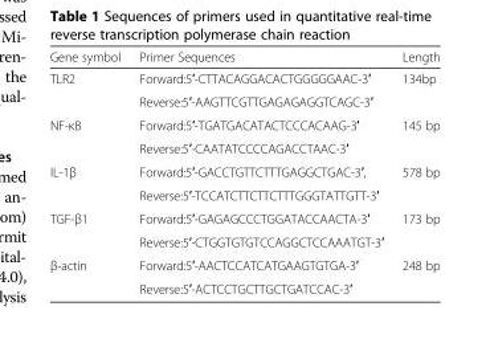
<table><thead><tr><td>Gene symbol</td><td>Primer Sequences</td><td>Length</td></tr></thead><tbody><tr><td rowspan="2">TLR2</td><td>Forward:5′-CTTACAGGACACTGGGGGAAC-3′</td><td>134bp</td></tr><tr><td>Reverse:5′-AAGTTCGTTGAGAGAGGTCAGC-3′</td><td></td></tr><tr><td rowspan="2">NF-κB</td><td>Forward:5′-TGATGACATACTCCCACAAG-3′</td><td>145 bp</td></tr><tr><td>Reverse:5′-CAATATCCCCAGACCTAAC-3′</td><td></td></tr><tr><td rowspan="2">IL-1β</td><td>Forward:5′-GACCTGTTCTTTGAGGCTGAC-3′,</td><td>578 bp</td></tr><tr><td>Reverse:5′-TCCATCTTCTTCTTTGGGTATTGTT-3′</td><td></td></tr><tr><td rowspan="2">TGF-β1</td><td>Forward:5′-GAGAGCCCTGGATACCAACTA-3′</td><td>173 bp</td></tr><tr><td>Reverse:5′-CTGGTGTGTCCAGGCTCCAAATGT-3′</td><td></td></tr><tr><td rowspan="2">β-actin</td><td>Forward:5′-AACTCCATCATGAAGTGTGA-3′</td><td>248 bp</td></tr><tr><td>Reverse:5′-ACTCCTGCTTGCTGATCCAC-3′</td><td></td></tr></tbody></table>